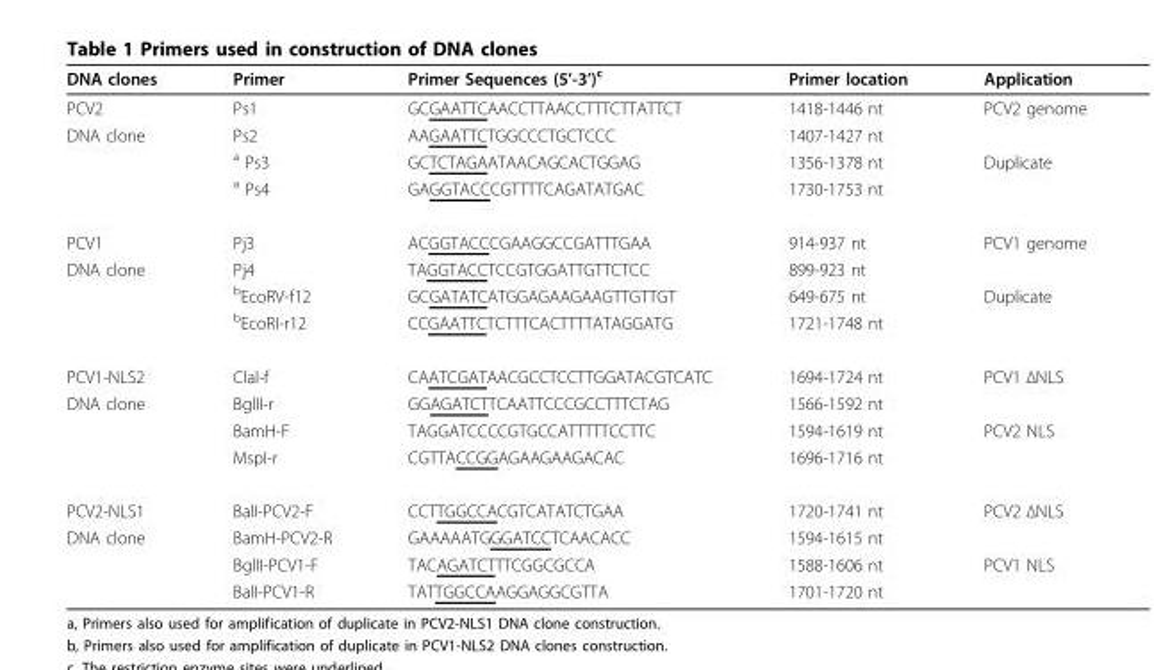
<table><thead><tr><td>DNA clones</td><td>Primer</td><td>Primer Sequences (5’-3’)<sup>c</sup></td><td>Primer location</td><td>Application</td></tr></thead><tbody><tr><td>PCV2</td><td>Ps1</td><td>GCGAATTCAACCTTAACCTTTCTTATTCT</td><td>1418-1446 nt</td><td>PCV2 genome</td></tr><tr><td rowspan="3">DNA clone</td><td>Ps2</td><td>AAGAATTCTGGCCCTGCTCCC</td><td>1407-1427 nt</td><td></td></tr><tr><td><sup>a</sup> Ps3</td><td>GCTCTAGAATAACAGCACTGGAG</td><td>1356-1378 nt</td><td>Duplicate</td></tr><tr><td><sup>a</sup> Ps4</td><td>GAGGTACCCGTTTTCAGATATGAC</td><td>1730-1753 nt</td><td></td></tr><tr><td>PCV1</td><td>Pj3</td><td>ACGGTACCCGAAGGCCGATTTGAA</td><td>914-937 nt</td><td>PCV1 genome</td></tr><tr><td rowspan="3">DNA clone</td><td>Pj4</td><td>TAGGTACCTCCGTGGATTGTTCTCC</td><td>899-923 nt</td><td></td></tr><tr><td><sup>b</sup>EcoRV-f12</td><td>GCGATATCATGGAGAAGAAGTTGTTGT</td><td>649-675 nt</td><td>Duplicate</td></tr><tr><td><sup>b</sup>EcoRI-r12</td><td>CCGAATTCTCTTTCACTTTTATAGGATG</td><td>1721-1748 nt</td><td></td></tr><tr><td>PCV1-NLS2</td><td>ClaI-f</td><td>CAATCGATAACGCCTCCTTGGATACGTCATC</td><td>1694-1724 nt</td><td>PCV1 ΔNLS</td></tr><tr><td rowspan="3">DNA clone</td><td>BglII-r</td><td>GGAGATCTTCAATTCCCGCCTTTCTAG</td><td>1566-1592 nt</td><td></td></tr><tr><td>BamH-F</td><td>TAGGATCCCCGTGCCATTTTTCCTTC</td><td>1594-1619 nt</td><td>PCV2 NLS</td></tr><tr><td>MspI-r</td><td>CGTTACCGGAGAAGAAGACAC</td><td>1696-1716 nt</td><td></td></tr><tr><td>PCV2-NLS1</td><td>BalI-PCV2-F</td><td>CCTTGGCCACGTCATATCTGAA</td><td>1720-1741 nt</td><td>PCV2 ΔNLS</td></tr><tr><td rowspan="3">DNA clone</td><td>BamH-PCV2-R</td><td>GAAAAATGGGATCCTCAACACC</td><td>1594-1615 nt</td><td></td></tr><tr><td>BglII-PCV1-F</td><td>TACAGATCTTTCGGCGCCA</td><td>1588-1606 nt</td><td>PCV1 NLS</td></tr><tr><td>BalI-PCV1-R</td><td>TATTGGCCAAGGAGGCGTTA</td><td>1701-1720 nt</td><td></td></tr></tbody></table>